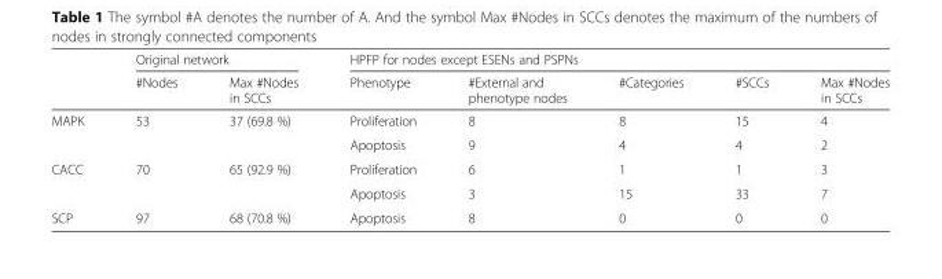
<table><thead><tr><td rowspan="2"></td><td colspan="2">Original network</td><td colspan="5">HPFP for nodes except ESENs and PSPNs</td></tr><tr><td>#Nodes</td><td>Max #Nodes in SCCs</td><td>Phenotype</td><td>#External and phenotype nodes</td><td>#Categories</td><td>#SCCs</td><td>Max #Nodes in SCCs</td></tr></thead><tbody><tr><td rowspan="2">MAPK</td><td rowspan="2">53</td><td rowspan="2">37 (69.8 %)</td><td>Proliferation</td><td>8</td><td>8</td><td>15</td><td>4</td></tr><tr><td>Apoptosis</td><td>9</td><td>4</td><td>4</td><td>2</td></tr><tr><td rowspan="2">CACC</td><td rowspan="2">70</td><td rowspan="2">65 (92.9 %)</td><td>Proliferation</td><td>6</td><td>1</td><td>1</td><td>3</td></tr><tr><td>Apoptosis</td><td>3</td><td>15</td><td>33</td><td>7</td></tr><tr><td>SCP</td><td>97</td><td>68 (70.8 %)</td><td>Apoptosis</td><td>8</td><td>0</td><td>0</td><td>0</td></tr></tbody></table>